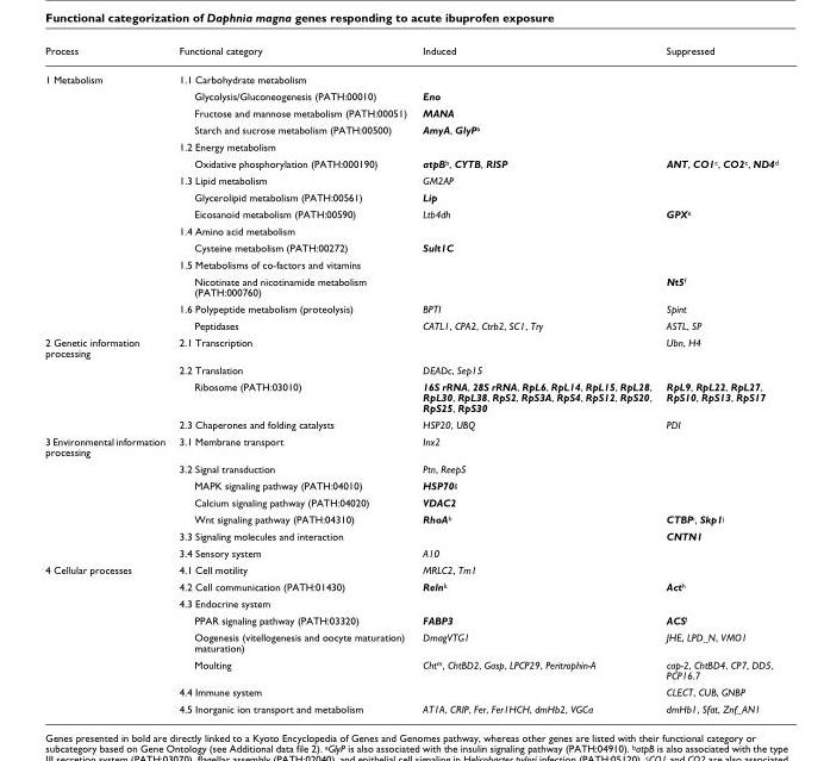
<table><thead><tr><td>Process</td><td>Functional category</td><td>Induced</td><td>Suppressed</td></tr></thead><tbody><tr><td rowspan="15">1 Metabolism</td><td>1.1 Carbohydrate metabolism</td><td></td><td></td></tr><tr><td>Glycolysis/Gluconeogenesis (PATH:00010)</td><td>Eno</td><td></td></tr><tr><td>Fructose and mannose metabolism (PATH:00051)</td><td>MANA</td><td></td></tr><tr><td>Starch and sucrose metabolism (PATH:00500)</td><td>AmyA, GlyP<sup>a</sup></td><td></td></tr><tr><td>1.2 Energy metabolism</td><td></td><td></td></tr><tr><td>Oxidative phosphorylation (PATH:000190)</td><td>atpB<sup>b</sup>, CYTB, RISP</td><td>ANT, CO1<sup>c</sup>, CO2<sup>c</sup>, ND4<sup>d</sup></td></tr><tr><td>1.3 Lipid metabolism</td><td>GM2AP</td><td></td></tr><tr><td>Glycerolipid metabolism (PATH:00561)</td><td>Lip</td><td></td></tr><tr><td>Eicosanoid metabolism (PATH:00590)</td><td>Ltb4dh</td><td>GPX<sup>e</sup></td></tr><tr><td>1.4 Amino acid metabolism</td><td></td><td></td></tr><tr><td>Cysteine metabolism (PATH:00272)</td><td>Sult1C</td><td></td></tr><tr><td>1.5 Metabolisms of co-factors and vitamins</td><td></td><td></td></tr><tr><td>Nicotinate and nicotinamide metabolism (PATH:000760)</td><td></td><td>Nt5<sup>f</sup></td></tr><tr><td>1.6 Polypeptide metabolism (proteolysis)</td><td>BPTI</td><td>Spint</td></tr><tr><td>Peptidases</td><td>CATL1, CPA2, Ctrb2, SC1, Try</td><td>ASTL, SP</td></tr><tr><td rowspan="4">2 Genetic information processing</td><td>2.1 Transcription</td><td></td><td>Ubn, H4</td></tr><tr><td>2.2 Translation</td><td>DEADc, Sep15</td><td></td></tr><tr><td>Ribosome (PATH:03010)</td><td>16S rRNA, 28S rRNA, RpL6, RpL14, RpL15, RpL28, RpL30, RpL38, RpS2, RpS3A, RpS4, RpS12, RpS20, RpS25, RpS30</td><td>RpL9, RpL22, RpL27, RpS10, RpS13, RpS17</td></tr><tr><td>2.3 Chaperones and folding catalysts</td><td>HSP20, UBQ</td><td>PDI</td></tr><tr><td rowspan="7">3 Environmental information processing</td><td>3.1 Membrane transport</td><td>Inx2</td><td></td></tr><tr><td>3.2 Signal transduction</td><td>Ptn, Reep5</td><td></td></tr><tr><td>MAPK signaling pathway (PATH:04010)</td><td>HSP70<sup>g</sup></td><td></td></tr><tr><td>Calcium signaling pathway (PATH:04020)</td><td>VDAC2</td><td></td></tr><tr><td>Wnt signaling pathway (PATH:04310)</td><td>RhoA<sup>h</sup></td><td>CTBP<sup>i</sup>, Skp1<sup>j</sup></td></tr><tr><td>3.3 Signaling molecules and interaction</td><td></td><td>CNTN1</td></tr><tr><td>3.4 Sensory system</td><td>A10</td><td></td></tr><tr><td rowspan="8">4 Cellular processes</td><td>4.1 Cell motility</td><td>MRLC2, Tm1</td><td></td></tr><tr><td>4.2 Cell communication (PATH:01430)</td><td>Reln<sup>k</sup></td><td>Act<sup>h</sup></td></tr><tr><td>4.3 Endocrine system</td><td></td><td></td></tr><tr><td>PPAR signaling pathway (PATH:03320)</td><td>FABP3</td><td>ACS<sup>l</sup></td></tr><tr><td>Oogenesis (vitellogenesis and oocyte maturation) maturation)</td><td>DmagVTG1</td><td>JHE, LPD_N, VMO1</td></tr><tr><td>Moulting</td><td>Cht<sup>m</sup>, ChtBD2, Gasp, LPCP29, Peritrophin-A</td><td>cap-2, ChtBD4, CP7, DD5, PCP16.7</td></tr><tr><td>4.4 Immune system</td><td></td><td>CLECT, CUB, GNBP</td></tr><tr><td>4.5 Inorganic ion transport and metabolism</td><td>AT1A, CRIP, Fer, Fer1HCH, dmHb2, VGCa</td><td>dmHb1, Sfat, Znf_AN1</td></tr></tbody></table>